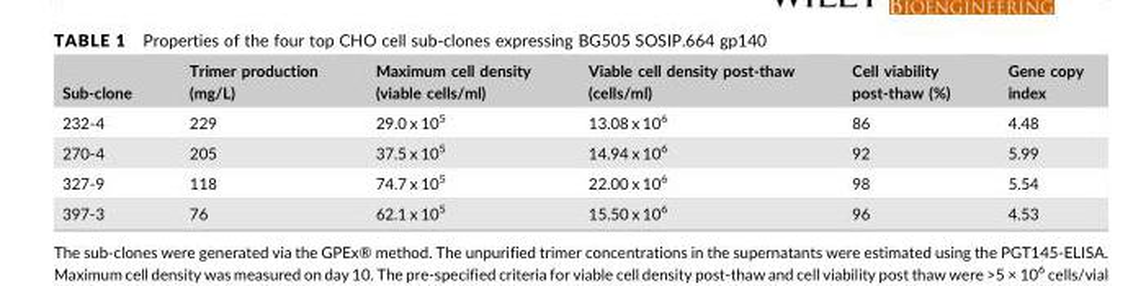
<table><thead><tr><td>Sub-clone</td><td>Trimer production (mg/L)</td><td>Maximum cell density (viable cells/ml)</td><td>Viable cell density post-thaw (cells/ml)</td><td>Cell viability post-thaw (%)</td><td>Gene copy index</td></tr></thead><tbody><tr><td>232-4</td><td>229</td><td>29.0 x 10<sup>5</sup></td><td>13.08 x 10<sup>6</sup></td><td>86</td><td>4.48</td></tr><tr><td>270-4</td><td>205</td><td>37.5 x 10<sup>5</sup></td><td>14.94 x 10<sup>6</sup></td><td>92</td><td>5.99</td></tr><tr><td>327-9</td><td>118</td><td>74.7 x 10<sup>5</sup></td><td>22.00 x 10<sup>6</sup></td><td>98</td><td>5.54</td></tr><tr><td>397-3</td><td>76</td><td>62.1 x 10<sup>5</sup></td><td>15.50 x 10<sup>6</sup></td><td>96</td><td>4.53</td></tr></tbody></table>